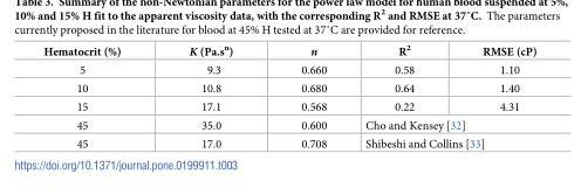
<table><thead><tr><td>Hematocrit (%)</td><td>K (Pa.s<sup>n</sup>)</td><td>n</td><td>R<sup>2</sup></td><td>RMSE (cP)</td></tr></thead><tbody><tr><td>5</td><td>9.3</td><td>0.660</td><td>0.58</td><td>1.10</td></tr><tr><td>10</td><td>10.8</td><td>0.680</td><td>0.64</td><td>1.40</td></tr><tr><td>15</td><td>17.1</td><td>0.568</td><td>0.22</td><td>4.31</td></tr><tr><td>45</td><td>35.0</td><td>0.600</td><td colspan="2">Cho and Kensey [32]</td></tr><tr><td>45</td><td>17.0</td><td>0.708</td><td colspan="2">Shibeshi and Collins [33]</td></tr></tbody></table>